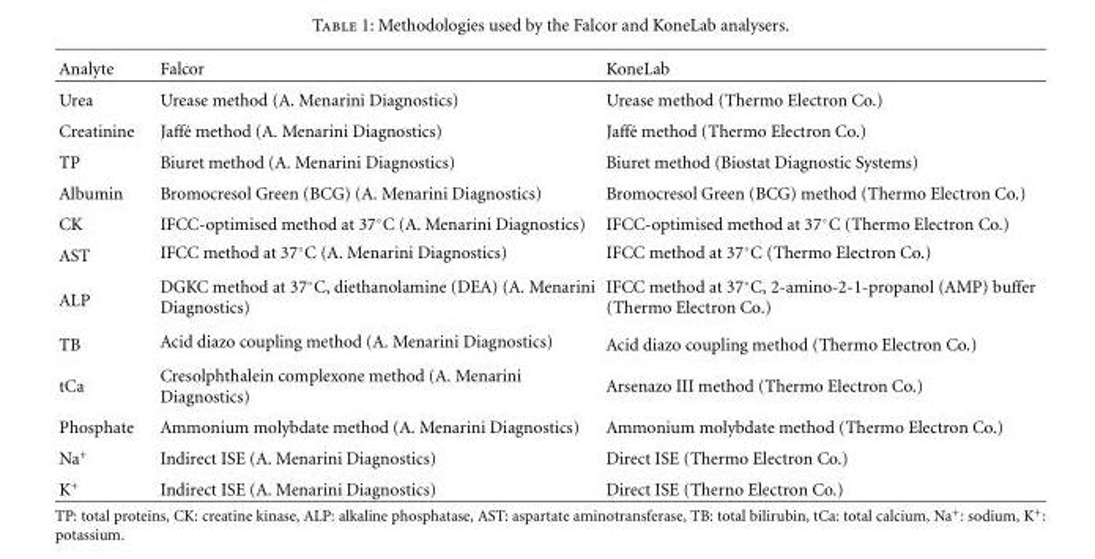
<table><thead><tr><td>Analyte</td><td>Falcor</td><td>KoneLab</td></tr></thead><tbody><tr><td>Urea</td><td>Urease method (A. Menarini Diagnostics)</td><td>Urease method (Thermo Electron Co.)</td></tr><tr><td>Creatinine</td><td>Jaff´e method (A. Menarini Diagnostics)</td><td>Jaff´e method (Thermo Electron Co.)</td></tr><tr><td>TP</td><td>Biuret method (A. Menarini Diagnostics)</td><td>Biuret method (Biostat Diagnostic Systems)</td></tr><tr><td>Albumin</td><td>Bromocresol Green (BCG) (A. Menarini Diagnostics)</td><td>Bromocresol Green (BCG) method (Thermo Electron Co.)</td></tr><tr><td>CK</td><td>IFCC-optimised method at 37◦C (A. Menarini Diagnostics)</td><td>IFCC-optimised method at 37◦C (Thermo Electron Co.)</td></tr><tr><td>AST</td><td>IFCC method at 37◦C (A. Menarini Diagnostics)</td><td>IFCC method at 37◦C (Thermo Electron Co.)</td></tr><tr><td>ALP</td><td>DGKC method at 37◦C, diethanolamine (DEA) (A. Menarini Diagnostics)</td><td>IFCC method at 37◦C, 2-amino-2-1-propanol (AMP) buffer (Thermo Electron Co.)</td></tr><tr><td>TB</td><td>Acid diazo coupling method (A. Menarini Diagnostics)</td><td>Acid diazo coupling method (Thermo Electron Co.)</td></tr><tr><td>tCa</td><td>Cresolphthalein complexone method (A. Menarini Diagnostics)</td><td>Arsenazo III method (Thermo Electron Co.)</td></tr><tr><td>Phosphate</td><td>Ammonium molybdate method (A. Menarini Diagnostics)</td><td>Ammonium molybdate method (Thermo Electron Co.)</td></tr><tr><td>Na<sup>+</sup></td><td>Indirect ISE (A. Menarini Diagnostics)</td><td>Direct ISE (Thermo Electron Co.)</td></tr><tr><td>K<sup>+</sup></td><td>Indirect ISE (A. Menarini Diagnostics)</td><td>Direct ISE (Therno Electron Co.)</td></tr></tbody></table>